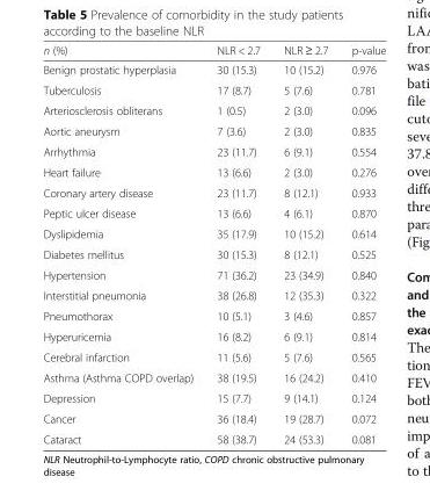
<table><thead><tr><td>n (%)</td><td>NLR &lt; 2.7</td><td>NLR ≥ 2.7</td><td>p-value</td></tr></thead><tbody><tr><td>Benign prostatic hyperplasia</td><td>30 (15.3)</td><td>10 (15.2)</td><td>0.976</td></tr><tr><td>Tuberculosis</td><td>17 (8.7)</td><td>5 (7.6)</td><td>0.781</td></tr><tr><td>Arteriosclerosis obliterans</td><td>1 (0.5)</td><td>2 (3.0)</td><td>0.096</td></tr><tr><td>Aortic aneurysm</td><td>7 (3.6)</td><td>2 (3.0)</td><td>0.835</td></tr><tr><td>Arrhythmia</td><td>23 (11.7)</td><td>6 (9.1)</td><td>0.554</td></tr><tr><td>Heart failure</td><td>13 (6.6)</td><td>2 (3.0)</td><td>0.276</td></tr><tr><td>Coronary artery disease</td><td>23 (11.7)</td><td>8 (12.1)</td><td>0.933</td></tr><tr><td>Peptic ulcer disease</td><td>13 (6.6)</td><td>4 (6.1)</td><td>0.870</td></tr><tr><td>Dyslipidemia</td><td>35 (17.9)</td><td>10 (15.2)</td><td>0.614</td></tr><tr><td>Diabetes mellitus</td><td>30 (15.3)</td><td>8 (12.1)</td><td>0.525</td></tr><tr><td>Hypertension</td><td>71 (36.2)</td><td>23 (34.9)</td><td>0.840</td></tr><tr><td>Interstitial pneumonia</td><td>38 (26.8)</td><td>12 (35.3)</td><td>0.322</td></tr><tr><td>Pneumothorax</td><td>10 (5.1)</td><td>3 (4.6)</td><td>0.857</td></tr><tr><td>Hyperuricemia</td><td>16 (8.2)</td><td>6 (9.1)</td><td>0.814</td></tr><tr><td>Cerebral infarction</td><td>11 (5.6)</td><td>5 (7.6)</td><td>0.565</td></tr><tr><td>Asthma (Asthma COPD overlap)</td><td>38 (19.5)</td><td>16 (24.2)</td><td>0.410</td></tr><tr><td>Depression</td><td>15 (7.7)</td><td>9 (14.1)</td><td>0.124</td></tr><tr><td>Cancer</td><td>36 (18.4)</td><td>19 (28.7)</td><td>0.072</td></tr><tr><td>Cataract</td><td>58 (38.7)</td><td>24 (53.3)</td><td>0.081</td></tr></tbody></table>